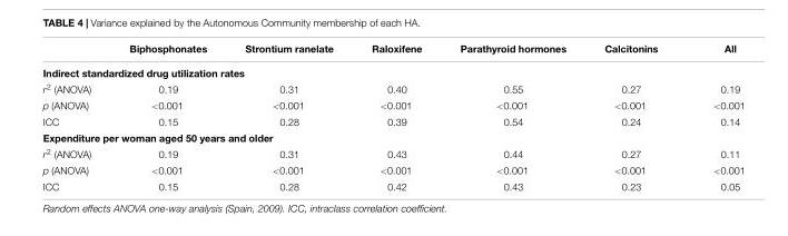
<table><thead><tr><td></td><td>Biphosphonates</td><td>Strontium ranelate</td><td>Raloxifene</td><td>Parathyroid hormones</td><td>Calcitonins</td><td>All</td></tr></thead><tbody><tr><td colspan="7">Indirect standardized drug utilization rates</td></tr><tr><td>r<sup>2</sup> (ANOVA)</td><td>0.19</td><td>0.31</td><td>0.40</td><td>0.55</td><td>0.27</td><td>0.19</td></tr><tr><td>p (ANOVA)</td><td>&lt;0.001</td><td>&lt;0.001</td><td>&lt;0.001</td><td>&lt;0.001</td><td>&lt;0.001</td><td>&lt;0.001</td></tr><tr><td>ICC</td><td>0.15</td><td>0.28</td><td>0.39</td><td>0.54</td><td>0.24</td><td>0.14</td></tr><tr><td colspan="7">Expenditure per woman aged 50 years and older</td></tr><tr><td>r<sup>2</sup> (ANOVA)</td><td>0.19</td><td>0.31</td><td>0.43</td><td>0.44</td><td>0.27</td><td>0.11</td></tr><tr><td>p (ANOVA)</td><td>&lt;0.001</td><td>&lt;0.001</td><td>&lt;0.001</td><td>&lt;0.001</td><td>&lt;0.001</td><td>&lt;0.001</td></tr><tr><td>ICC</td><td>0.15</td><td>0.28</td><td>0.42</td><td>0.43</td><td>0.23</td><td>0.05</td></tr></tbody></table>